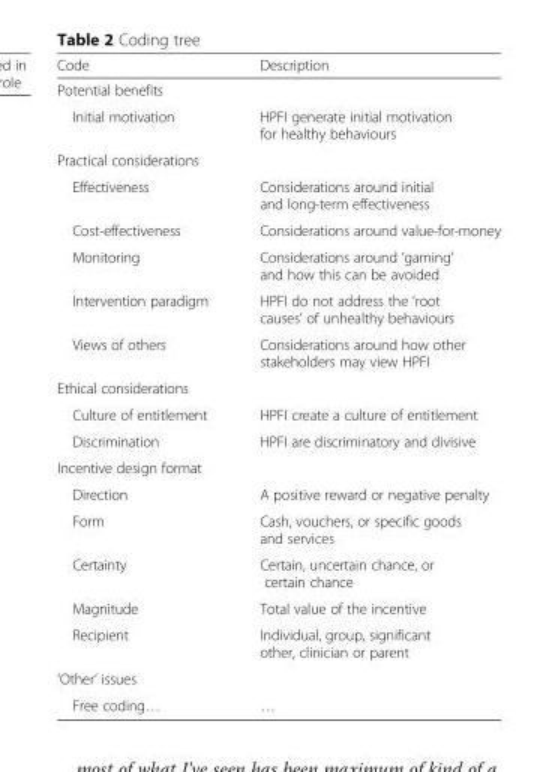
<table><thead><tr><td>Code</td><td>Description</td></tr></thead><tbody><tr><td colspan="2">Potential benefits</td></tr><tr><td>Initial motivation</td><td>HPFI generate initial motivation for healthy behaviours</td></tr><tr><td colspan="2">Practical considerations</td></tr><tr><td>Effectiveness</td><td>Considerations around initial and long-term effectiveness</td></tr><tr><td>Cost-effectiveness</td><td>Considerations around value-for-money</td></tr><tr><td>Monitoring</td><td>Considerations around ‘gaming’ and how this can be avoided</td></tr><tr><td>Intervention paradigm</td><td>HPFI do not address the ‘root causes’ of unhealthy behaviours</td></tr><tr><td>Views of others</td><td>Considerations around how other stakeholders may view HPFI</td></tr><tr><td colspan="2">Ethical considerations</td></tr><tr><td>Culture of entitlement</td><td>HPFI create a culture of entitlement</td></tr><tr><td>Discrimination</td><td>HPFI are discriminatory and divisive</td></tr><tr><td colspan="2">Incentive design format</td></tr><tr><td>Direction</td><td>A positive reward or negative penalty</td></tr><tr><td>Form</td><td>Cash, vouchers, or specific goods and services</td></tr><tr><td>Certainty</td><td>Certain, uncertain chance, or certain chance</td></tr><tr><td>Magnitude</td><td>Total value of the incentive</td></tr><tr><td>Recipient</td><td>Individual, group, significant other, clinician or parent</td></tr><tr><td colspan="2">‘Other’ issues</td></tr><tr><td>Free coding…</td><td>…</td></tr></tbody></table>